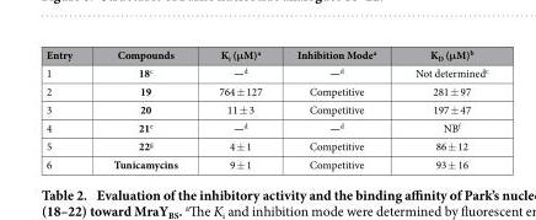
<table><thead><tr><td>Entry</td><td>Compounds</td><td>K<sub>i</sub> (μ M)<sup>a</sup></td><td>Inhibition Mode<sup>a</sup></td><td>K<sub>D</sub> (μ M)<sup>b</sup></td></tr></thead><tbody><tr><td>1</td><td>18<sup>c</sup></td><td>—d</td><td>—d</td><td>Not determined<sup>c</sup></td></tr><tr><td>2</td><td>19</td><td>764 ± 127</td><td>Competitive</td><td>281 ± 97</td></tr><tr><td>3</td><td>20</td><td>11 ± 3</td><td>Competitive</td><td>197 ± 47</td></tr><tr><td>4</td><td>21<sup>e</sup></td><td>—d</td><td>—d</td><td>NB<sup>f</sup></td></tr><tr><td>5</td><td>22<sup>g</sup></td><td>4 ± 1</td><td>Competitive</td><td>86 ± 12</td></tr><tr><td>6</td><td>Tunicamycins</td><td>9 ± 1</td><td>Competitive</td><td>93 ± 16</td></tr></tbody></table>